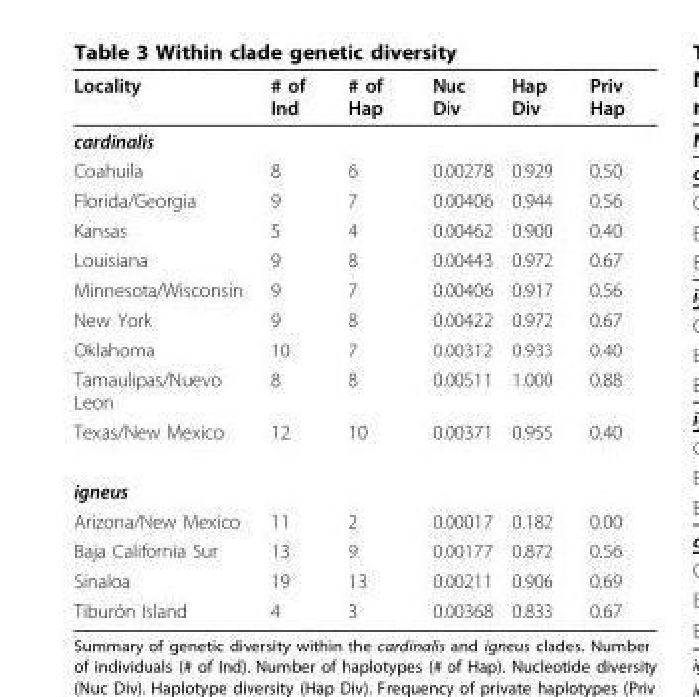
<table><thead><tr><td>Locality</td><td># of Ind</td><td># of Hap</td><td>Nuc Div</td><td>Hap Div</td><td>Priv Hap</td></tr></thead><tbody><tr><td colspan="6">cardinalis</td></tr><tr><td>Coahuila</td><td>8</td><td>6</td><td>0.00278</td><td>0.929</td><td>0.50</td></tr><tr><td>Florida/Georgia</td><td>9</td><td>7</td><td>0.00406</td><td>0.944</td><td>0.56</td></tr><tr><td>Kansas</td><td>5</td><td>4</td><td>0.00462</td><td>0.900</td><td>0.40</td></tr><tr><td>Louisiana</td><td>9</td><td>8</td><td>0.00443</td><td>0.972</td><td>0.67</td></tr><tr><td>Minnesota/Wisconsin</td><td>9</td><td>7</td><td>0.00406</td><td>0.917</td><td>0.56</td></tr><tr><td>New York</td><td>9</td><td>8</td><td>0.00422</td><td>0.972</td><td>0.67</td></tr><tr><td>Oklahoma</td><td>10</td><td>7</td><td>0.00312</td><td>0.933</td><td>0.40</td></tr><tr><td>Tamaulipas/Nuevo Leon</td><td>8</td><td>8</td><td>0.00511</td><td>1.000</td><td>0.88</td></tr><tr><td>Texas/New Mexico</td><td>12</td><td>10</td><td>0.00371</td><td>0.955</td><td>0.40</td></tr><tr><td colspan="6">igneus</td></tr><tr><td>Arizona/New Mexico</td><td>11</td><td>2</td><td>0.00017</td><td>0.182</td><td>0.00</td></tr><tr><td>Baja California Sur</td><td>13</td><td>9</td><td>0.00177</td><td>0.872</td><td>0.56</td></tr><tr><td>Sinaloa</td><td>19</td><td>13</td><td>0.00211</td><td>0.906</td><td>0.69</td></tr><tr><td>Tiburón Island</td><td>4</td><td>3</td><td>0.00368</td><td>0.833</td><td>0.67</td></tr></tbody></table>